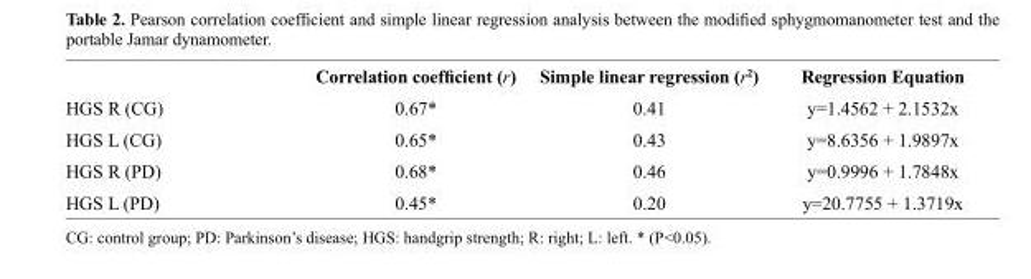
<table><thead><tr><td></td><td>Correlation coefficient (r)</td><td>Simple linear regression (r<sup>2</sup>)</td><td>Regression Equation</td></tr></thead><tbody><tr><td>HGS R (CG)</td><td>0.67*</td><td>0.41</td><td>y=1.4562 + 2.1532x</td></tr><tr><td>HGS L (CG)</td><td>0.65*</td><td>0.43</td><td>y=8.6356 + 1.9897x</td></tr><tr><td>HGS R (PD)</td><td>0.68*</td><td>0.46</td><td>y=0.9996 + 1.7848x</td></tr><tr><td>HGS L (PD)</td><td>0.45*</td><td>0.20</td><td>y=20.7755 + 1.3719x</td></tr></tbody></table>